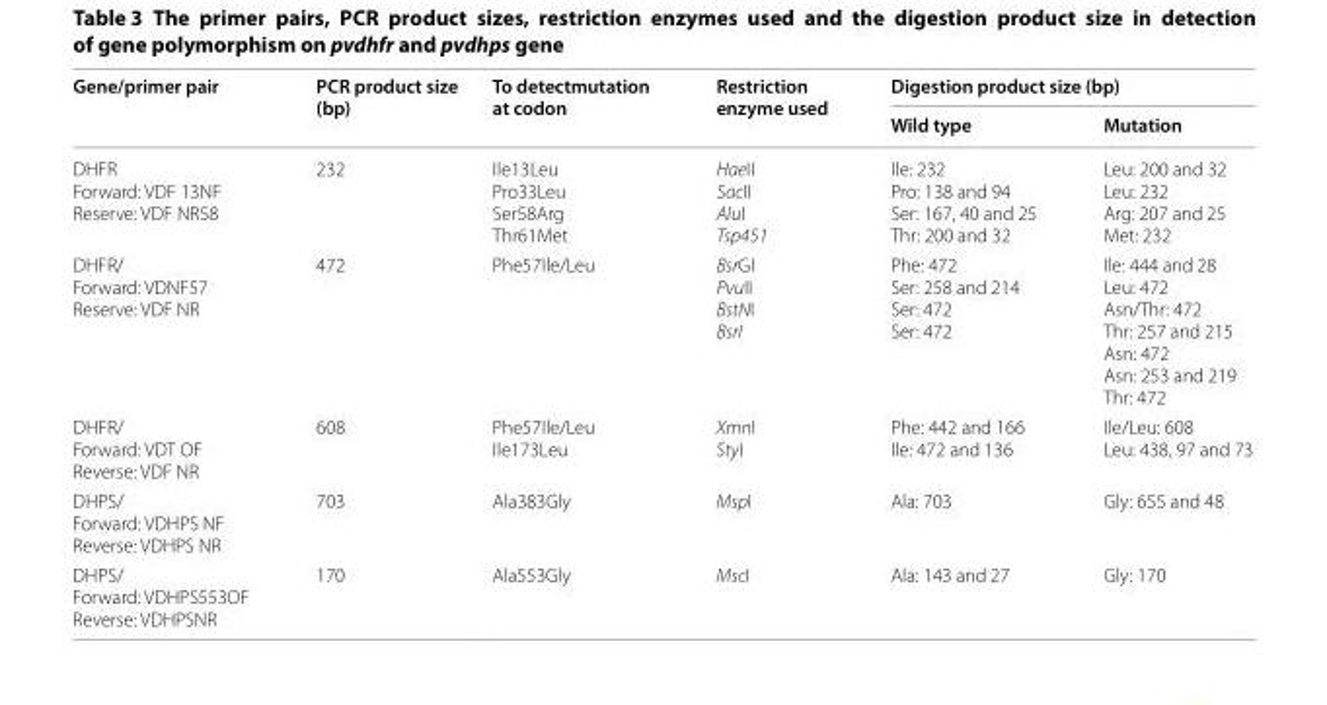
<table><thead><tr><td rowspan="2">Gene/primer pair</td><td rowspan="2">PCR product size (bp)</td><td rowspan="2">To detectmutation at codon</td><td rowspan="2">Restriction enzyme used</td><td colspan="2">Digestion product size (bp)</td></tr><tr><td>Wild type</td><td>Mutation</td></tr></thead><tbody><tr><td>DHFR Forward: VDF 13NF Reserve: VDF NR58</td><td>232</td><td>Ile13Leu Pro33Leu Ser58Arg Thr61Met</td><td>HaeII SacII AluI Tsp451</td><td>Ile: 232 Pro: 138 and 94 Ser: 167, 40 and 25 Thr: 200 and 32</td><td>Leu: 200 and 32 Leu: 232 Arg: 207 and 25 Met: 232</td></tr><tr><td>DHFR/ Forward: VDNF57 Reserve: VDF NR</td><td>472</td><td>Phe57Ile/Leu</td><td>BsrGI PvuII BstNI BsrI</td><td>Phe: 472 Ser: 258 and 214 Ser: 472 Ser: 472</td><td>Ile: 444 and 28 Leu: 472 Asn/Thr: 472 Thr: 257 and 215 Asn: 472 Asn: 253 and 219 Thr: 472</td></tr><tr><td>DHFR/ Forward: VDT OF Reverse: VDF NR</td><td>608</td><td>Phe57Ile/Leu Ile173Leu</td><td>XmnI StyI</td><td>Phe: 442 and 166 Ile: 472 and 136</td><td>Ile/Leu: 608 Leu: 438, 97 and 73</td></tr><tr><td>DHPS/ Forward: VDHPS NF Reverse: VDHPS NR</td><td>703</td><td>Ala383Gly</td><td>MspI</td><td>Ala: 703</td><td>Gly: 655 and 48</td></tr><tr><td>DHPS/ Forward: VDHPS553OF Reverse: VDHPSNR</td><td>170</td><td>Ala553Gly</td><td>MscI</td><td>Ala: 143 and 27</td><td>Gly: 170</td></tr></tbody></table>